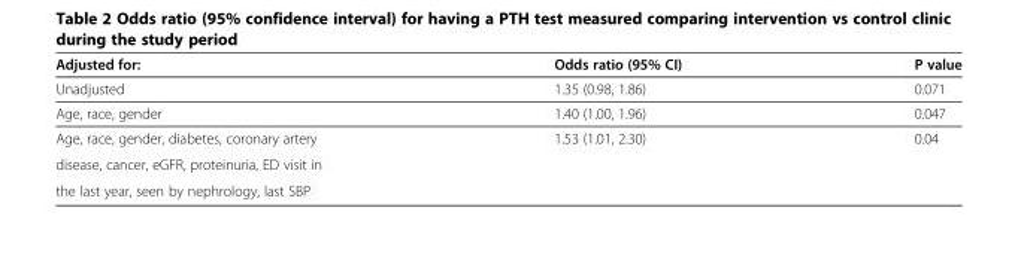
<table><thead><tr><td>Adjusted for:</td><td>Odds ratio (95% CI)</td><td>P value</td></tr></thead><tbody><tr><td>Unadjusted</td><td>1.35 (0.98, 1.86)</td><td>0.071</td></tr><tr><td>Age, race, gender</td><td>1.40 (1.00, 1.96)</td><td>0.047</td></tr><tr><td>Age, race, gender, diabetes, coronary artery</td><td>1.53 (1.01, 2.30)</td><td>0.04</td></tr><tr><td colspan="3">disease, cancer, eGFR, proteinuria, ED visit in</td></tr><tr><td>the last year, seen by nephrology, last SBP</td><td></td><td></td></tr></tbody></table>